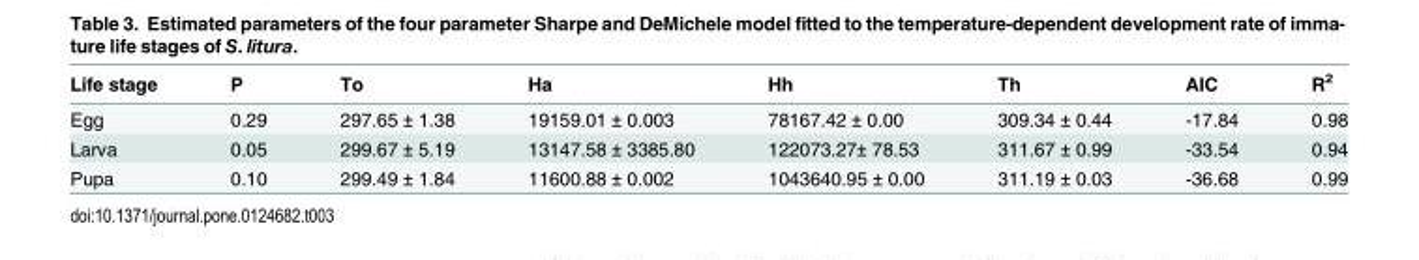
<table><thead><tr><td>Life stage</td><td>P</td><td>To</td><td>Ha</td><td>Hh</td><td>Th</td><td>AIC</td><td>R<sup>2</sup></td></tr></thead><tbody><tr><td>Egg</td><td>0.29</td><td>297.65 ± 1.38</td><td>19159.01 ± 0.003</td><td>78167.42 ± 0.00</td><td>309.34 ± 0.44</td><td>-17.84</td><td>0.98</td></tr><tr><td>Larva</td><td>0.05</td><td>299.67 ± 5.19</td><td>13147.58 ± 3385.80</td><td>122073.27± 78.53</td><td>311.67 ± 0.99</td><td>-33.54</td><td>0.94</td></tr><tr><td>Pupa</td><td>0.10</td><td>299.49 ± 1.84</td><td>11600.88 ± 0.002</td><td>1043640.95 ± 0.00</td><td>311.19 ± 0.03</td><td>-36.68</td><td>0.99</td></tr></tbody></table>